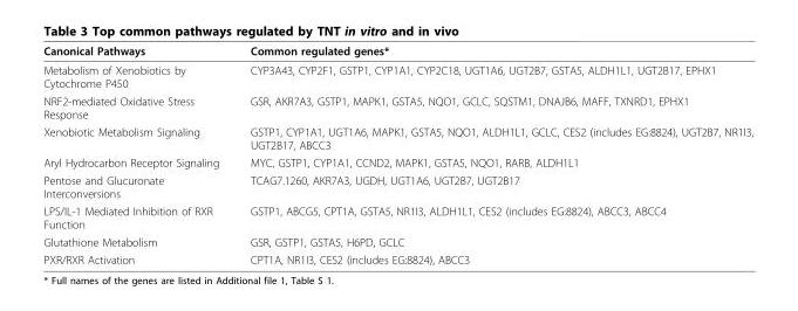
<table><thead><tr><td>Canonical Pathways</td><td>Common regulated genes*</td></tr></thead><tbody><tr><td>Metabolism of Xenobiotics by Cytochrome P450</td><td>CYP3A43, CYP2F1, GSTP1, CYP1A1, CYP2C18, UGT1A6, UGT2B7, GSTA5, ALDH1L1, UGT2B17, EPHX1</td></tr><tr><td>NRF2-mediated Oxidative Stress Response</td><td>GSR, AKR7A3, GSTP1, MAPK1, GSTA5, NQO1, GCLC, SQSTM1, DNAJB6, MAFF, TXNRD1, EPHX1</td></tr><tr><td>Xenobiotic Metabolism Signaling</td><td>GSTP1, CYP1A1, UGT1A6, MAPK1, GSTA5, NQO1, ALDH1L1, GCLC, CES2 (includes EG:8824), UGT2B7, NR1I3, UGT2B17, ABCC3</td></tr><tr><td>Aryl Hydrocarbon Receptor Signaling</td><td>MYC, GSTP1, CYP1A1, CCND2, MAPK1, GSTA5, NQO1, RARB, ALDH1L1</td></tr><tr><td>Pentose and Glucuronate Interconversions</td><td>TCAG7.1260, AKR7A3, UGDH, UGT1A6, UGT2B7, UGT2B17</td></tr><tr><td>LPS/IL-1 Mediated Inhibition of RXR Function</td><td>GSTP1, ABCG5, CPT1A, GSTA5, NR1I3, ALDH1L1, CES2 (includes EG:8824), ABCC3, ABCC4</td></tr><tr><td>Glutathione Metabolism</td><td>GSR, GSTP1, GSTA5, H6PD, GCLC</td></tr><tr><td>PXR/RXR Activation</td><td>CPT1A, NR1I3, CES2 (includes EG:8824), ABCC3</td></tr></tbody></table>